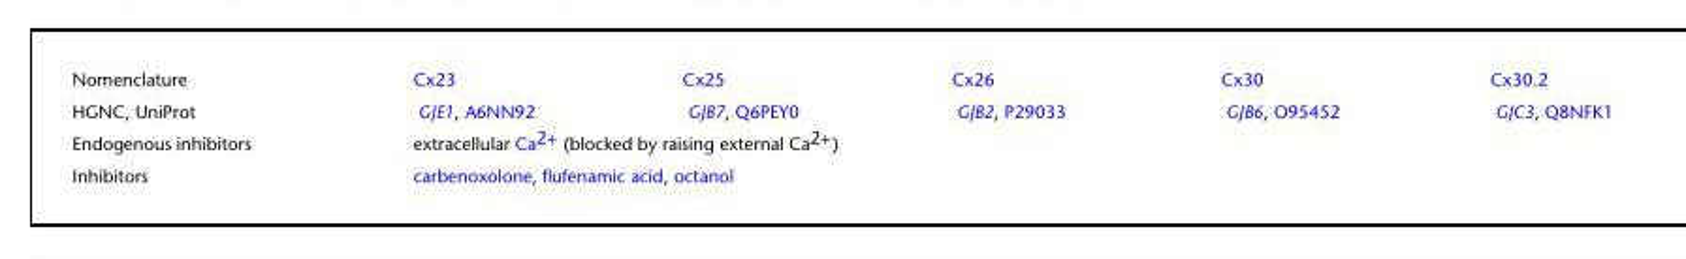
<table><tbody><tr><td>Nomenclature</td><td>Cx23</td><td>Cx25</td><td>Cx26</td><td>Cx30</td><td>Cx30.2</td></tr><tr><td>HGNC, UniProt</td><td>GJE1, A6NN92</td><td>GJB7, Q6PEY0</td><td>GJB2, P29033</td><td>GJB6, O95452</td><td>GJC3, Q8NFK1</td></tr><tr><td>Endogenous inhibitors</td><td colspan="4">extracellular Ca<sup>2+</sup> (blocked by raising external Ca<sup>2+</sup>)</td><td></td></tr><tr><td>Inhibitors</td><td colspan="4">carbenoxolone, flufenamic acid, octanol</td><td></td></tr></tbody></table>